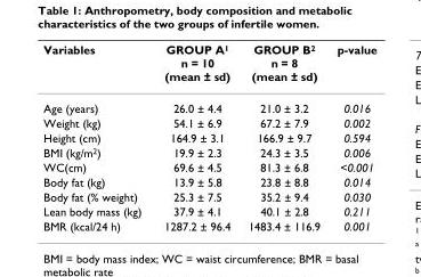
<table><thead><tr><td>Variables</td><td>GROUP A<sup>1</sup> n = 10 (mean ± sd)</td><td>GROUP B<sup>2</sup> n = 8 (mean ± sd)</td><td>p-value</td></tr></thead><tbody><tr><td>Age (years)</td><td>26.0 ± 4.4</td><td>21.0 ± 3.2</td><td>0.016</td></tr><tr><td>Weight (kg)</td><td>54.1 ± 6.9</td><td>67.2 ± 7.9</td><td>0.002</td></tr><tr><td>Height (cm)</td><td>164.9 ± 3.1</td><td>166.9 ± 9.7</td><td>0.594</td></tr><tr><td>BMI (kg/m<sup>2</sup>)</td><td>19.9 ± 2.3</td><td>24.3 ± 3.5</td><td>0.006</td></tr><tr><td>WC(cm)</td><td>69.6 ± 4.5</td><td>81.3 ± 6.8</td><td>&lt;0.001</td></tr><tr><td>Body fat (kg)</td><td>13.9 ± 5.8</td><td>23.8 ± 8.8</td><td>0.014</td></tr><tr><td>Body fat (% weight)</td><td>25.3 ± 7.5</td><td>35.2 ± 9.4</td><td>0.030</td></tr><tr><td>Lean body mass (kg)</td><td>37.9 ± 4.1</td><td>40.1 ± 2.8</td><td>0.211</td></tr><tr><td>BMR (kcal/24 h)</td><td>1287.2 ± 96.4</td><td>1483.4 ± 116.9</td><td>0.001</td></tr></tbody></table>